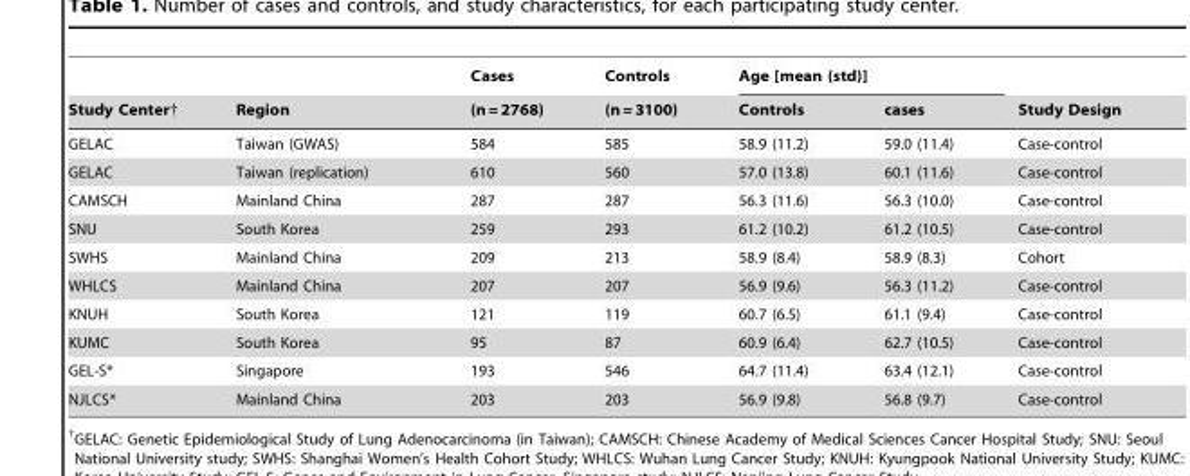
<table><thead><tr><td rowspan="2">Study Center†</td><td rowspan="2">Region</td><td rowspan="2">Cases (n = 2768)</td><td rowspan="2">Controls (n = 3100)</td><td colspan="2">Age [mean (std)]</td><td rowspan="2">Study Design</td></tr><tr><td>Controls</td><td>cases</td></tr></thead><tbody><tr><td>GELAC</td><td>Taiwan (GWAS)</td><td>584</td><td>585</td><td>58.9 (11.2)</td><td>59.0 (11.4)</td><td>Case-control</td></tr><tr><td>GELAC</td><td>Taiwan (replication)</td><td>610</td><td>560</td><td>57.0 (13.8)</td><td>60.1 (11.6)</td><td>Case-control</td></tr><tr><td>CAMSCH</td><td>Mainland China</td><td>287</td><td>287</td><td>56.3 (11.6)</td><td>56.3 (10.0)</td><td>Case-control</td></tr><tr><td>SNU</td><td>South Korea</td><td>259</td><td>293</td><td>61.2 (10.2)</td><td>61.2 (10.5)</td><td>Case-control</td></tr><tr><td>SWHS</td><td>Mainland China</td><td>209</td><td>213</td><td>58.9 (8.4)</td><td>58.9 (8.3)</td><td>Cohort</td></tr><tr><td>WHLCS</td><td>Mainland China</td><td>207</td><td>207</td><td>56.9 (9.6)</td><td>56.3 (11.2)</td><td>Case-control</td></tr><tr><td>KNUH</td><td>South Korea</td><td>121</td><td>119</td><td>60.7 (6.5)</td><td>61.1 (9.4)</td><td>Case-control</td></tr><tr><td>KUMC</td><td>South Korea</td><td>95</td><td>87</td><td>60.9 (6.4)</td><td>62.7 (10.5)</td><td>Case-control</td></tr><tr><td>GEL-S*</td><td>Singapore</td><td>193</td><td>546</td><td>64.7 (11.4)</td><td>63.4 (12.1)</td><td>Case-control</td></tr><tr><td>NJLCS*</td><td>Mainland China</td><td>203</td><td>203</td><td>56.9 (9.8)</td><td>56.8 (9.7)</td><td>Case-control</td></tr></tbody></table>